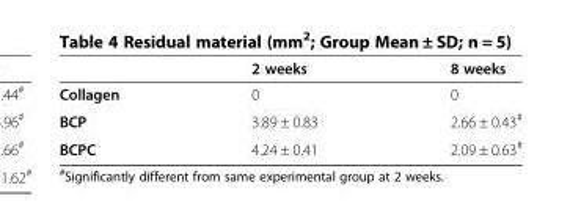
<table><thead><tr><td></td><td>2 weeks</td><td>8 weeks</td></tr></thead><tbody><tr><td>Collagen</td><td>0</td><td>0</td></tr><tr><td>BCP</td><td>3.89 ± 0.83</td><td>2.66 ± 0.43<sup>#</sup></td></tr><tr><td>BCPC</td><td>4.24 ± 0.41</td><td>2.09 ± 0.63<sup>#</sup></td></tr></tbody></table>